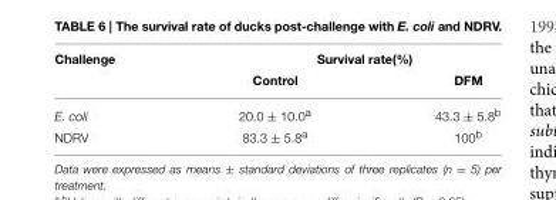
<table><thead><tr><td rowspan="2">Challenge</td><td colspan="2">Survival rate(%)</td></tr><tr><td>Control</td><td>DFM</td></tr></thead><tbody><tr><td>E. coli</td><td>20.0 ± 10.0<sup>a</sup></td><td>43.3 ± 5.8<sup>b</sup></td></tr><tr><td>NDRV</td><td>83.3 ± 5.8<sup>a</sup></td><td>100<sup>b</sup></td></tr></tbody></table>